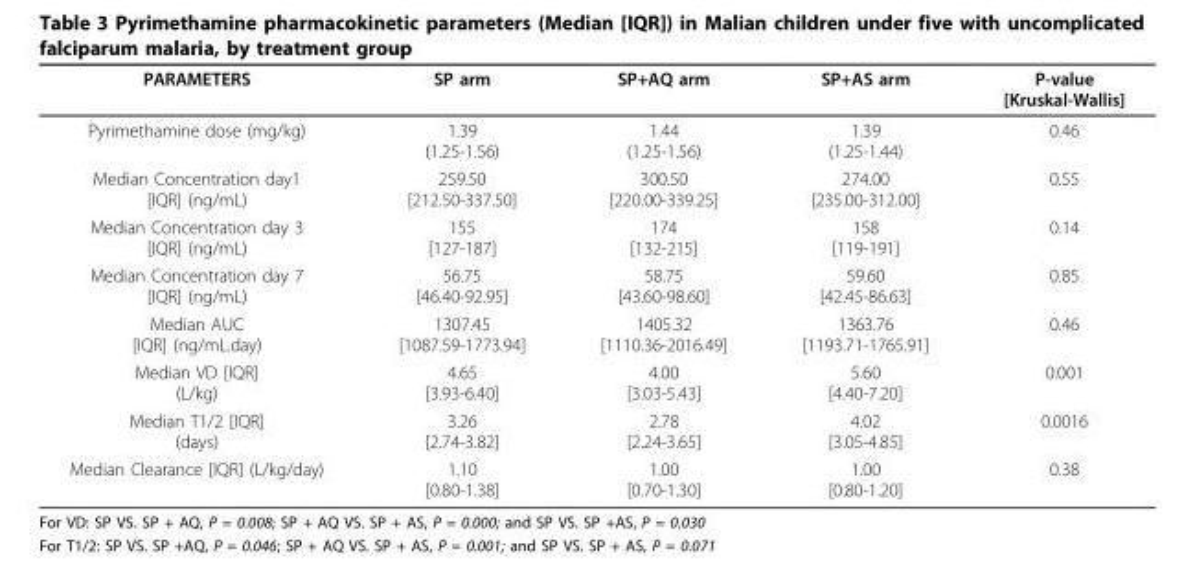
<table><thead><tr><td>PARAMETERS</td><td>SP arm</td><td>SP+AQ arm</td><td>SP+AS arm</td><td>P-value [Kruskal-Wallis]</td></tr></thead><tbody><tr><td>Pyrimethamine dose (mg/kg)</td><td>1.39 (1.25-1.56)</td><td>1.44 (1.25-1.56)</td><td>1.39 (1.25-1.44)</td><td>0.46</td></tr><tr><td>Median Concentration day1 [IQR] (ng/mL)</td><td>259.50 [212.50-337.50]</td><td>300.50 [220.00-339.25]</td><td>274.00 [235.00-312.00]</td><td>0.55</td></tr><tr><td>Median Concentration day 3 [IQR] (ng/mL)</td><td>155 [127-187]</td><td>174 [132-215]</td><td>158 [119-191]</td><td>0.14</td></tr><tr><td>Median Concentration day 7 [IQR] (ng/mL)</td><td>56.75 [46.40-92.95]</td><td>58.75 [43.60-98.60]</td><td>59.60 [42.45-86.63]</td><td>0.85</td></tr><tr><td>Median AUC [IQR] (ng/mL.day)</td><td>1307.45 [1087.59-1773.94]</td><td>1405.32 [1110.36-2016.49]</td><td>1363.76 [1193.71-1765.91]</td><td>0.46</td></tr><tr><td>Median VD [IQR] (L/kg)</td><td>4.65 [3.93-6.40]</td><td>4.00 [3.03-5.43]</td><td>5.60 [4.40-7.20]</td><td>0.001</td></tr><tr><td>Median T1/2 [IQR] (days)</td><td>3.26 [2.74-3.82]</td><td>2.78 [2.24-3.65]</td><td>4.02 [3.05-4.85]</td><td>0.0016</td></tr><tr><td>Median Clearance [IQR] (L/kg/day)</td><td>1.10 [0.80-1.38]</td><td>1.00 [0.70-1.30]</td><td>1.00 [0.80-1.20]</td><td>0.38</td></tr></tbody></table>